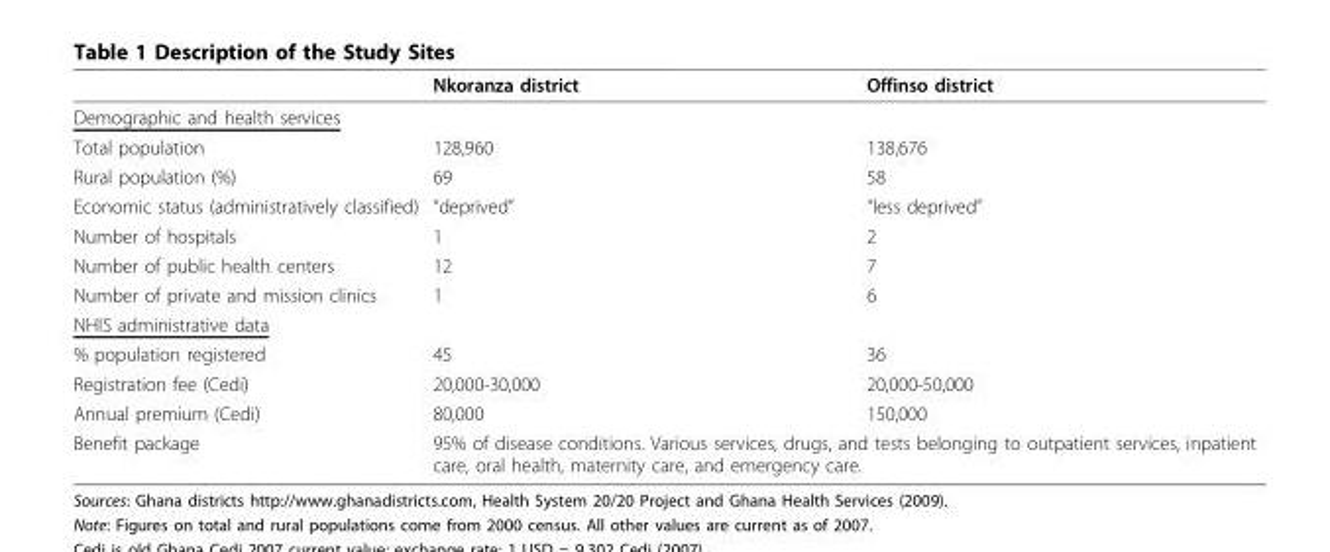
<table><thead><tr><td></td><td>Nkoranza district</td><td>Offinso district</td></tr></thead><tbody><tr><td colspan="3">Demographic and health services</td></tr><tr><td>Total population</td><td>128,960</td><td>138,676</td></tr><tr><td>Rural population (%)</td><td>69</td><td>58</td></tr><tr><td>Economic status (administratively classified)</td><td>“deprived”</td><td>“less deprived”</td></tr><tr><td>Number of hospitals</td><td>1</td><td>2</td></tr><tr><td>Number of public health centers</td><td>12</td><td>7</td></tr><tr><td>Number of private and mission clinics</td><td>1</td><td>6</td></tr><tr><td colspan="3">NHIS administrative data</td></tr><tr><td>% population registered</td><td>45</td><td>36</td></tr><tr><td>Registration fee (Cedi)</td><td>20,000-30,000</td><td>20,000-50,000</td></tr><tr><td>Annual premium (Cedi)</td><td>80,000</td><td>150,000</td></tr><tr><td>Benefit package</td><td colspan="2">95% of disease conditions. Various services, drugs, and tests belonging to outpatient services, inpatient care, oral health, maternity care, and emergency care.</td></tr></tbody></table>